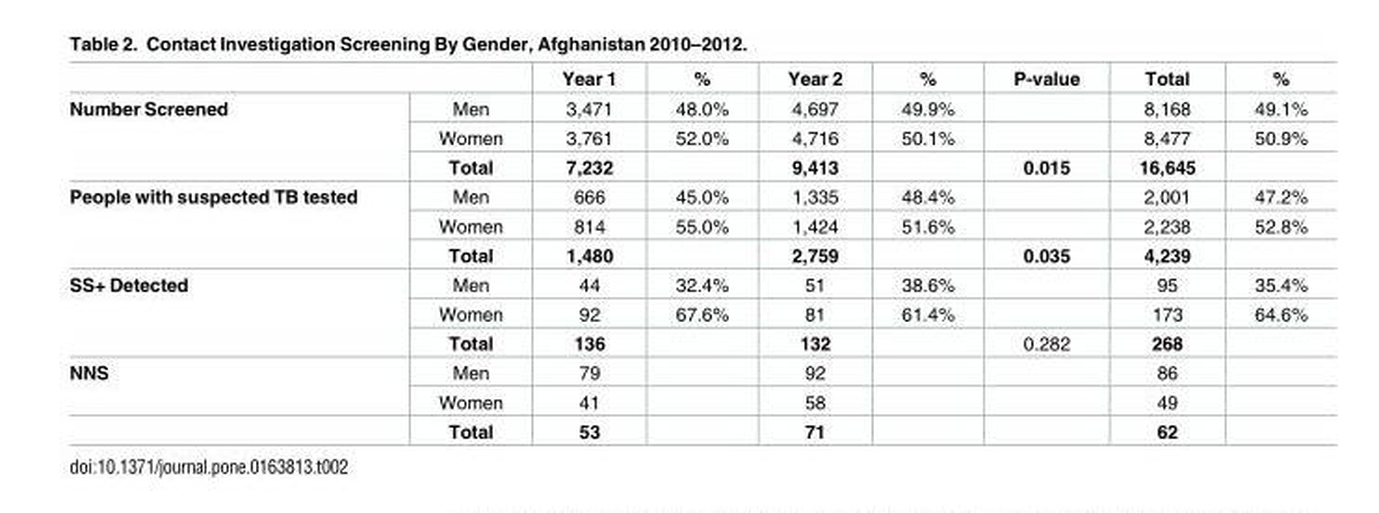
<table><thead><tr><td></td><td></td><td>Year 1</td><td>%</td><td>Year 2</td><td>%</td><td>P-value</td><td>Total</td><td>%</td></tr></thead><tbody><tr><td rowspan="3">Number Screened</td><td>Men</td><td>3,471</td><td>48.0%</td><td>4,697</td><td>49.9%</td><td></td><td>8,168</td><td>49.1%</td></tr><tr><td>Women</td><td>3,761</td><td>52.0%</td><td>4,716</td><td>50.1%</td><td></td><td>8,477</td><td>50.9%</td></tr><tr><td>Total</td><td>7,232</td><td></td><td>9,413</td><td></td><td>0.015</td><td>16,645</td><td></td></tr><tr><td rowspan="3">People with suspected TB tested</td><td>Men</td><td>666</td><td>45.0%</td><td>1,335</td><td>48.4%</td><td></td><td>2,001</td><td>47.2%</td></tr><tr><td>Women</td><td>814</td><td>55.0%</td><td>1,424</td><td>51.6%</td><td></td><td>2,238</td><td>52.8%</td></tr><tr><td>Total</td><td>1,480</td><td></td><td>2,759</td><td></td><td>0.035</td><td>4,239</td><td></td></tr><tr><td rowspan="3">SS+ Detected</td><td>Men</td><td>44</td><td>32.4%</td><td>51</td><td>38.6%</td><td></td><td>95</td><td>35.4%</td></tr><tr><td>Women</td><td>92</td><td>67.6%</td><td>81</td><td>61.4%</td><td></td><td>173</td><td>64.6%</td></tr><tr><td>Total</td><td>136</td><td></td><td>132</td><td></td><td>0.282</td><td>268</td><td></td></tr><tr><td rowspan="3">NNS</td><td>Men</td><td>79</td><td></td><td>92</td><td></td><td></td><td>86</td><td></td></tr><tr><td>Women</td><td>41</td><td></td><td>58</td><td></td><td></td><td>49</td><td></td></tr><tr><td>Total</td><td>53</td><td></td><td>71</td><td></td><td></td><td>62</td><td></td></tr></tbody></table>